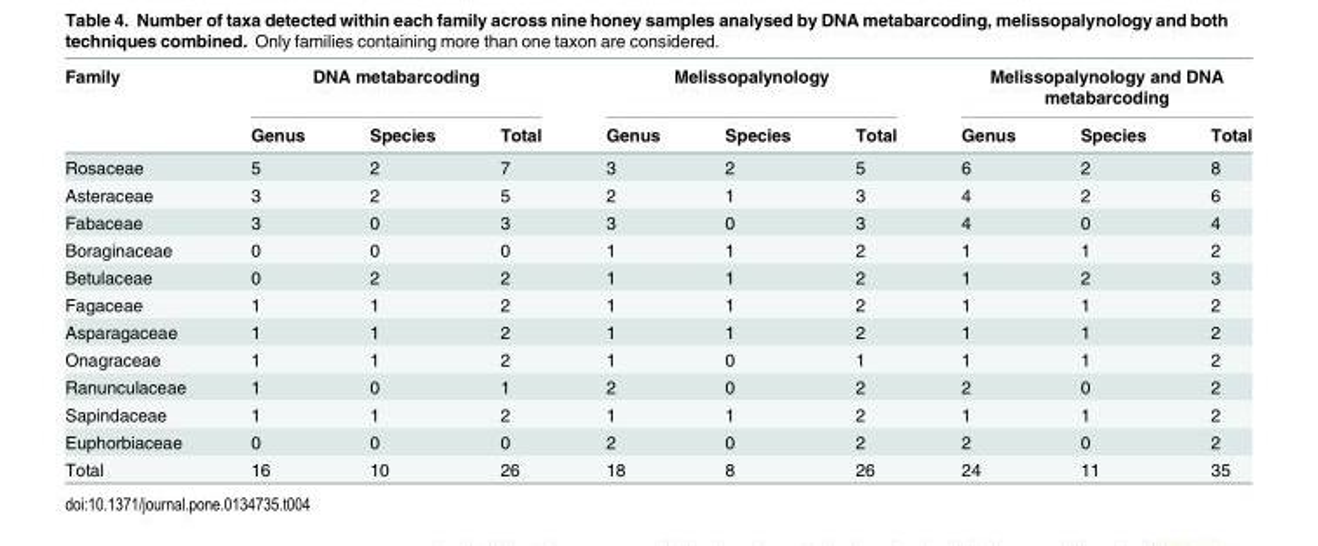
<table><thead><tr><td rowspan="2">Family</td><td colspan="3">DNA metabarcoding</td><td colspan="3">Melissopalynology</td><td colspan="3">Melissopalynology and DNA metabarcoding</td></tr><tr><td>Genus</td><td>Species</td><td>Total</td><td>Genus</td><td>Species</td><td>Total</td><td>Genus</td><td>Species</td><td>Total</td></tr></thead><tbody><tr><td>Rosaceae</td><td>5</td><td>2</td><td>7</td><td>3</td><td>2</td><td>5</td><td>6</td><td>2</td><td>8</td></tr><tr><td>Asteraceae</td><td>3</td><td>2</td><td>5</td><td>2</td><td>1</td><td>3</td><td>4</td><td>2</td><td>6</td></tr><tr><td>Fabaceae</td><td>3</td><td>0</td><td>3</td><td>3</td><td>0</td><td>3</td><td>4</td><td>0</td><td>4</td></tr><tr><td>Boraginaceae</td><td>0</td><td>0</td><td>0</td><td>1</td><td>1</td><td>2</td><td>1</td><td>1</td><td>2</td></tr><tr><td>Betulaceae</td><td>0</td><td>2</td><td>2</td><td>1</td><td>1</td><td>2</td><td>1</td><td>2</td><td>3</td></tr><tr><td>Fagaceae</td><td>1</td><td>1</td><td>2</td><td>1</td><td>1</td><td>2</td><td>1</td><td>1</td><td>2</td></tr><tr><td>Asparagaceae</td><td>1</td><td>1</td><td>2</td><td>1</td><td>1</td><td>2</td><td>1</td><td>1</td><td>2</td></tr><tr><td>Onagraceae</td><td>1</td><td>1</td><td>2</td><td>1</td><td>0</td><td>1</td><td>1</td><td>1</td><td>2</td></tr><tr><td>Ranunculaceae</td><td>1</td><td>0</td><td>1</td><td>2</td><td>0</td><td>2</td><td>2</td><td>0</td><td>2</td></tr><tr><td>Sapindaceae</td><td>1</td><td>1</td><td>2</td><td>1</td><td>1</td><td>2</td><td>1</td><td>1</td><td>2</td></tr><tr><td>Euphorbiaceae</td><td>0</td><td>0</td><td>0</td><td>2</td><td>0</td><td>2</td><td>2</td><td>0</td><td>2</td></tr><tr><td>Total</td><td>16</td><td>10</td><td>26</td><td>18</td><td>8</td><td>26</td><td>24</td><td>11</td><td>35</td></tr></tbody></table>